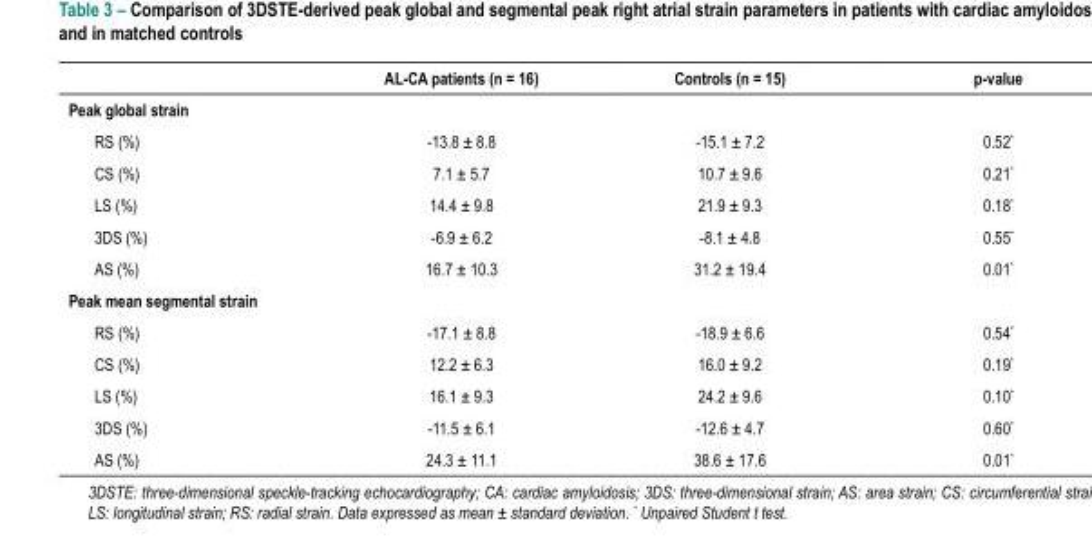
<table><thead><tr><td></td><td>AL-CA patients (n = 16)</td><td>Controls (n = 15)</td><td>p-value</td></tr></thead><tbody><tr><td colspan="4">Peak global strain</td></tr><tr><td>RS (%)</td><td>-13.8 ± 8.8</td><td>-15.1 ± 7.2</td><td>0.52*</td></tr><tr><td>CS (%)</td><td>7.1 ± 5.7</td><td>10.7 ± 9.6</td><td>0.21*</td></tr><tr><td>LS (%)</td><td>14.4 ± 9.8</td><td>21.9 ± 9.3</td><td>0.18*</td></tr><tr><td>3DS (%)</td><td>-6.9 ± 6.2</td><td>-8.1 ± 4.8</td><td>0.55*</td></tr><tr><td>AS (%)</td><td>16.7 ± 10.3</td><td>31.2 ± 19.4</td><td>0.01*</td></tr><tr><td colspan="4">Peak mean segmental strain</td></tr><tr><td>RS (%)</td><td>-17.1 ± 8.8</td><td>-18.9 ± 6.6</td><td>0.54*</td></tr><tr><td>CS (%)</td><td>12.2 ± 6.3</td><td>16.0 ± 9.2</td><td>0.19*</td></tr><tr><td>LS (%)</td><td>16.1 ± 9.3</td><td>24.2 ± 9.6</td><td>0.10*</td></tr><tr><td>3DS (%)</td><td>-11.5 ± 6.1</td><td>-12.6 ± 4.7</td><td>0.60*</td></tr><tr><td>AS (%)</td><td>24.3 ± 11.1</td><td>38.6 ± 17.6</td><td>0.01*</td></tr></tbody></table>